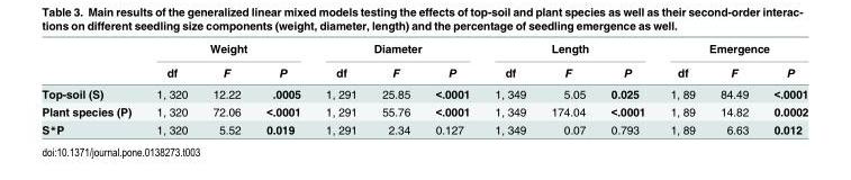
<table><thead><tr><td rowspan="2"></td><td colspan="3">Weight</td><td colspan="3">Diameter</td><td colspan="3">Length</td><td colspan="3">Emergence</td></tr><tr><td>df</td><td>F</td><td>P</td><td>df</td><td>F</td><td>P</td><td>df</td><td>F</td><td>P</td><td>df</td><td>F</td><td>P</td></tr></thead><tbody><tr><td>Top-soil (S)</td><td>1, 320</td><td>12.22</td><td>.0005</td><td>1, 291</td><td>25.85</td><td>&lt;.0001</td><td>1, 349</td><td>5.05</td><td>0.025</td><td>1, 89</td><td>84.49</td><td>&lt;.0001</td></tr><tr><td>Plant species (P)</td><td>1, 320</td><td>72.06</td><td>&lt;.0001</td><td>1, 291</td><td>55.76</td><td>&lt;.0001</td><td>1, 349</td><td>174.04</td><td>&lt;.0001</td><td>1, 89</td><td>14.82</td><td>0.0002</td></tr><tr><td>S*P</td><td>1, 320</td><td>5.52</td><td>0.019</td><td>1, 291</td><td>2.34</td><td>0.127</td><td>1, 349</td><td>0.07</td><td>0.793</td><td>1, 89</td><td>6.63</td><td>0.012</td></tr></tbody></table>